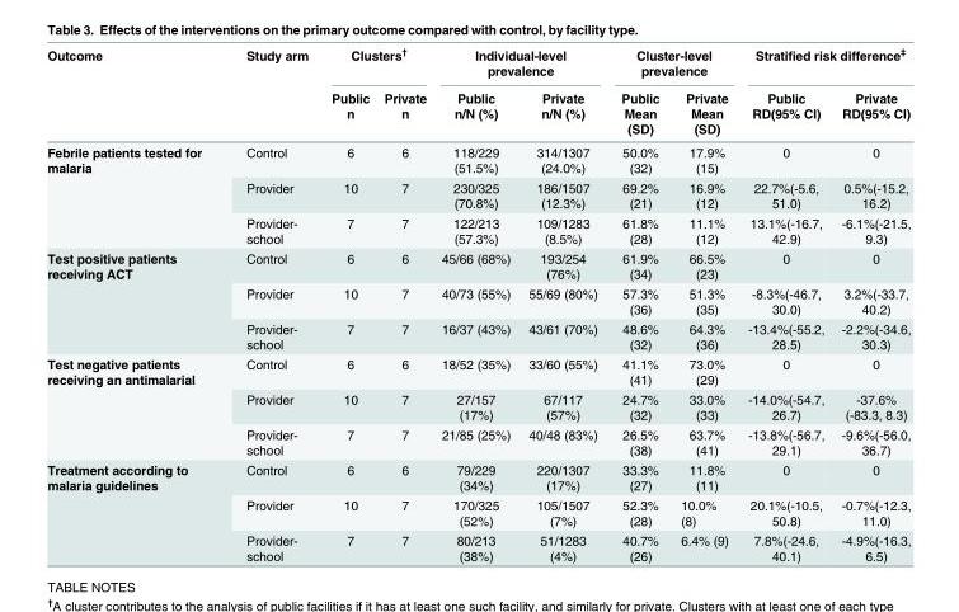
<table><thead><tr><td rowspan="3">Outcome</td><td rowspan="3">Study arm</td><td colspan="2">Clusters<sup>†</sup></td><td colspan="2">Individual-level prevalence</td><td colspan="2">Cluster-level prevalence</td><td colspan="2">Stratified risk difference<sup>‡</sup></td></tr><tr><td rowspan="2">Public n</td><td rowspan="2">Private n</td><td rowspan="2">Public n/N (%)</td><td rowspan="2">Private n/N (%)</td><td rowspan="2">Public Mean (SD)</td><td rowspan="2">Private Mean (SD)</td><td rowspan="2">Public RD(95% CI)</td><td rowspan="2">Private RD(95% CI)</td></tr><tr></tr></thead><tbody><tr><td rowspan="3">Febrile patients tested for malaria</td><td>Control</td><td>6</td><td>6</td><td>118/229 (51.5%)</td><td>314/1307 (24.0%)</td><td>50.0% (32)</td><td>17.9% (15)</td><td>0</td><td>0</td></tr><tr><td>Provider</td><td>10</td><td>7</td><td>230/325 (70.8%)</td><td>186/1507 (12.3%)</td><td>69.2% (21)</td><td>16.9% (12)</td><td>22.7%(-5.6, 51.0)</td><td>0.5%(-15.2, 16.2)</td></tr><tr><td>Provider- school</td><td>7</td><td>7</td><td>122/213 (57.3%)</td><td>109/1283 (8.5%)</td><td>61.8% (28)</td><td>11.1% (12)</td><td>13.1%(-16.7, 42.9)</td><td>-6.1%(-21.5, 9.3)</td></tr><tr><td rowspan="3">Test positive patients receiving ACT</td><td>Control</td><td>6</td><td>6</td><td>45/66 (68%)</td><td>193/254 (76%)</td><td>61.9% (34)</td><td>66.5% (23)</td><td>0</td><td>0</td></tr><tr><td>Provider</td><td>10</td><td>7</td><td>40/73 (55%)</td><td>55/69 (80%)</td><td>57.3% (36)</td><td>51.3% (35)</td><td>-8.3%(-46.7, 30.0)</td><td>3.2%(-33.7, 40.2)</td></tr><tr><td>Provider- school</td><td>7</td><td>7</td><td>16/37 (43%)</td><td>43/61 (70%)</td><td>48.6% (32)</td><td>64.3% (36)</td><td>-13.4%(-55.2, 28.5)</td><td>-2.2%(-34.6, 30.3)</td></tr><tr><td rowspan="3">Test negative patients receiving an antimalarial</td><td>Control</td><td>6</td><td>6</td><td>18/52 (35%)</td><td>33/60 (55%)</td><td>41.1% (41)</td><td>73.0% (29)</td><td>0</td><td>0</td></tr><tr><td>Provider</td><td>10</td><td>7</td><td>27/157 (17%)</td><td>67/117 (57%)</td><td>24.7% (32)</td><td>33.0% (33)</td><td>-14.0%(-54.7, 26.7)</td><td>-37.6% (-83.3, 8.3)</td></tr><tr><td>Provider- school</td><td>7</td><td>7</td><td>21/85 (25%)</td><td>40/48 (83%)</td><td>26.5% (38)</td><td>63.7% (41)</td><td>-13.8%(-56.7, 29.1)</td><td>-9.6%(-56.0, 36.7)</td></tr><tr><td rowspan="3">Treatment according to malaria guidelines</td><td>Control</td><td>6</td><td>6</td><td>79/229 (34%)</td><td>220/1307 (17%)</td><td>33.3% (27)</td><td>11.8% (11)</td><td>0</td><td>0</td></tr><tr><td>Provider</td><td>10</td><td>7</td><td>170/325 (52%)</td><td>105/1507 (7%)</td><td>52.3% (28)</td><td>10.0% (8)</td><td>20.1%(-10.5, 50.8)</td><td>-0.7%(-12.3, 11.0)</td></tr><tr><td>Provider- school</td><td>7</td><td>7</td><td>80/213 (38%)</td><td>51/1283 (4%)</td><td>40.7% (26)</td><td>6.4% (9)</td><td>7.8%(-24.6, 40.1)</td><td>-4.9%(-16.3, 6.5)</td></tr></tbody></table>